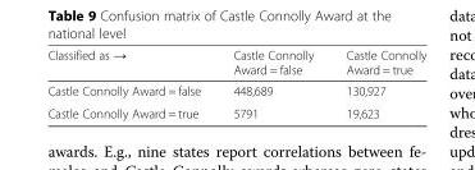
<table><thead><tr><td>Classified as →</td><td>Castle Connolly Award = false</td><td>Castle Connolly Award = true</td></tr></thead><tbody><tr><td>Castle Connolly Award = false</td><td>448,689</td><td>130,927</td></tr><tr><td>Castle Connolly Award = true</td><td>5791</td><td>19,623</td></tr></tbody></table>